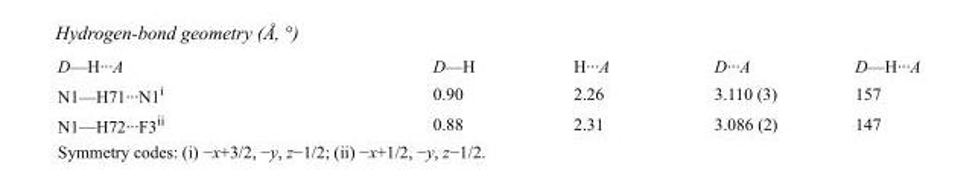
<table><tbody><tr><td>D—H···A</td><td>D—H</td><td>H···A</td><td>D···A</td><td>D—H···A</td></tr><tr><td>N1—H71···N1<sup>i</sup></td><td>0.90</td><td>2.26</td><td>3.110 (3)</td><td>157</td></tr><tr><td>N1—H72···F3<sup>ii</sup></td><td>0.88</td><td>2.31</td><td>3.086 (2)</td><td>147</td></tr></tbody></table>